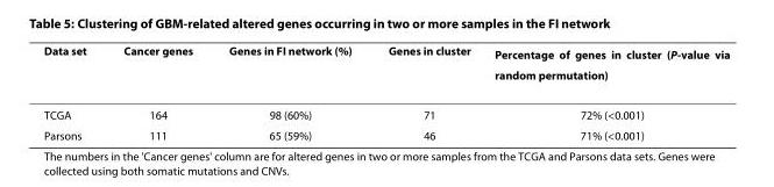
<table><thead><tr><td>Data set</td><td>Cancer genes</td><td>Genes in FI network (%)</td><td>Genes in cluster</td><td>Percentage of genes in cluster (P-value via random permutation)</td></tr></thead><tbody><tr><td>TCGA</td><td>164</td><td>98 (60%)</td><td>71</td><td>72% (&lt;0.001)</td></tr><tr><td>Parsons</td><td>111</td><td>65 (59%)</td><td>46</td><td>71% (&lt;0.001)</td></tr></tbody></table>